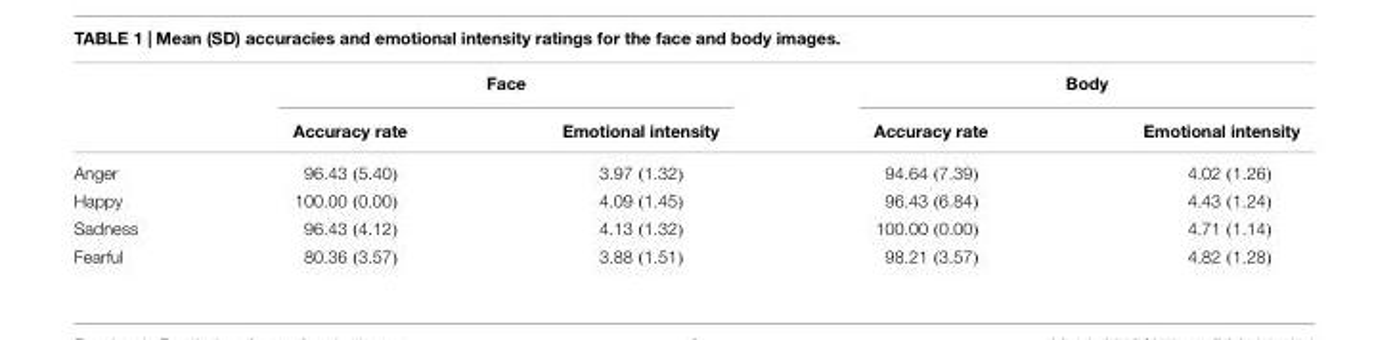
<table><thead><tr><td rowspan="2"></td><td colspan="2">Face</td><td colspan="2">Body</td></tr><tr><td>Accuracy rate</td><td>Emotional intensity</td><td>Accuracy rate</td><td>Emotional intensity</td></tr></thead><tbody><tr><td>Anger</td><td>96.43 (5.40)</td><td>3.97 (1.32)</td><td>94.64 (7.39)</td><td>4.02 (1.26)</td></tr><tr><td>Happy</td><td>100.00 (0.00)</td><td>4.09 (1.45)</td><td>96.43 (6.84)</td><td>4.43 (1.24)</td></tr><tr><td>Sadness</td><td>96.43 (4.12)</td><td>4.13 (1.32)</td><td>100.00 (0.00)</td><td>4.71 (1.14)</td></tr><tr><td>Fearful</td><td>80.36 (3.57)</td><td>3.88 (1.51)</td><td>98.21 (3.57)</td><td>4.82 (1.28)</td></tr></tbody></table>